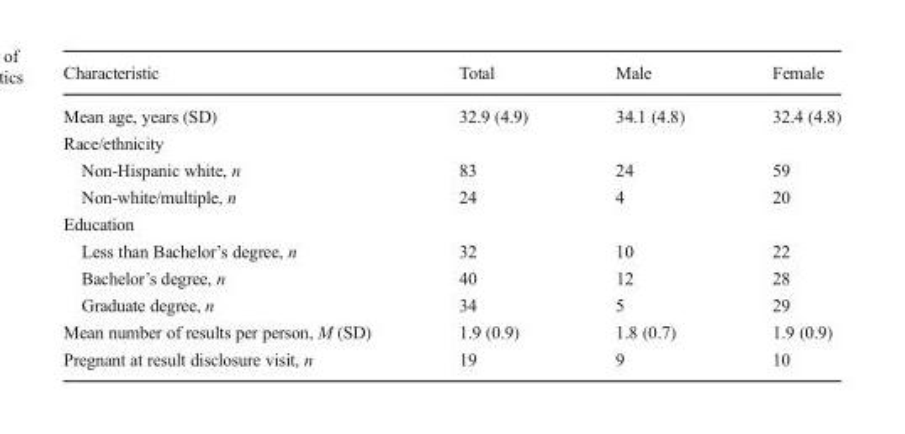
<table><thead><tr><td>Characteristic</td><td>Total</td><td>Male</td><td>Female</td></tr></thead><tbody><tr><td>Mean age, years (SD)</td><td>32.9 (4.9)</td><td>34.1 (4.8)</td><td>32.4 (4.8)</td></tr><tr><td colspan="4">Race/ethnicity</td></tr><tr><td>Non-Hispanic white, n</td><td>83</td><td>24</td><td>59</td></tr><tr><td>Non-white/multiple, n</td><td>24</td><td>4</td><td>20</td></tr><tr><td colspan="4">Education</td></tr><tr><td>Less than Bachelor’s degree, n</td><td>32</td><td>10</td><td>22</td></tr><tr><td>Bachelor’s degree, n</td><td>40</td><td>12</td><td>28</td></tr><tr><td>Graduate degree, n</td><td>34</td><td>5</td><td>29</td></tr><tr><td>Mean number of results per person, M (SD)</td><td>1.9 (0.9)</td><td>1.8 (0.7)</td><td>1.9 (0.9)</td></tr><tr><td>Pregnant at result disclosure visit, n</td><td>19</td><td>9</td><td>10</td></tr></tbody></table>